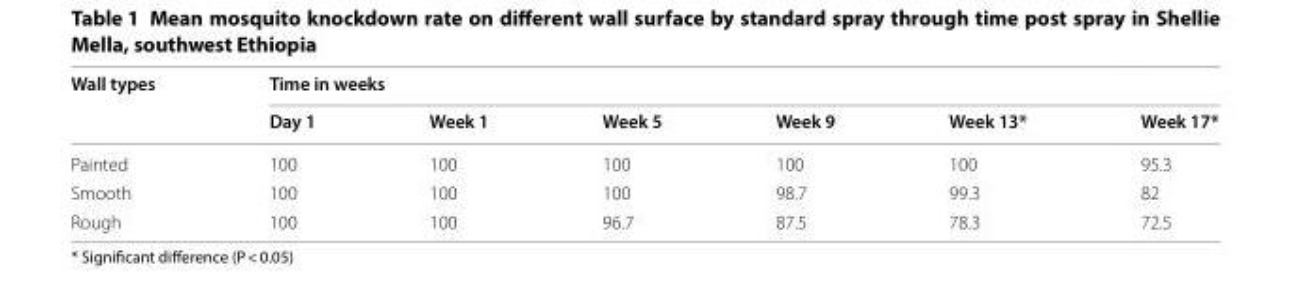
<table><thead><tr><td rowspan="2">Wall types</td><td colspan="6">Time in weeks</td></tr><tr><td>Day 1</td><td>Week 1</td><td>Week 5</td><td>Week 9</td><td>Week 13*</td><td>Week 17*</td></tr></thead><tbody><tr><td>Painted</td><td>100</td><td>100</td><td>100</td><td>100</td><td>100</td><td>95.3</td></tr><tr><td>Smooth</td><td>100</td><td>100</td><td>100</td><td>98.7</td><td>99.3</td><td>82</td></tr><tr><td>Rough</td><td>100</td><td>100</td><td>96.7</td><td>87.5</td><td>78.3</td><td>72.5</td></tr></tbody></table>